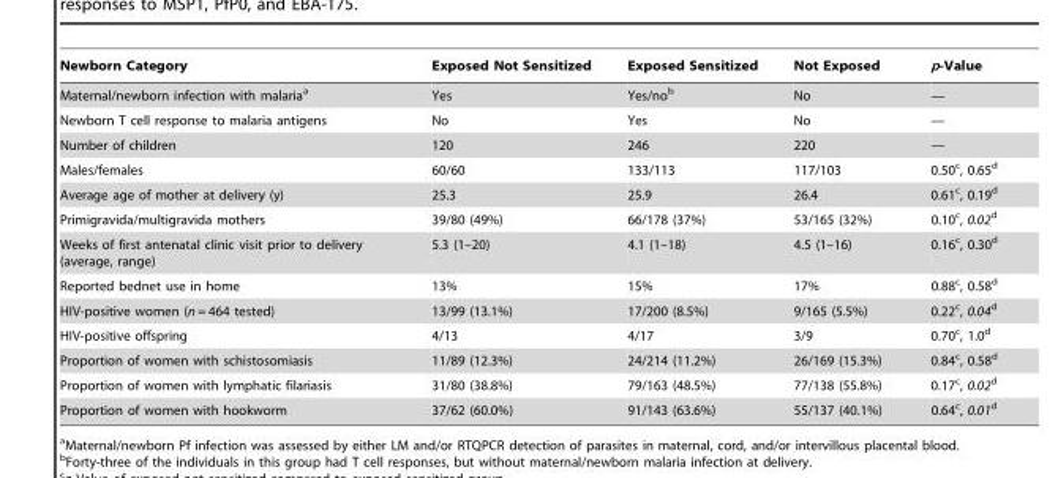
<table><thead><tr><td>Newborn Category</td><td>Exposed Not Sensitized</td><td>Exposed Sensitized</td><td>Not Exposed</td><td>p-Value</td></tr></thead><tbody><tr><td>Maternal/newborn infection with malaria<sup>a</sup></td><td>Yes</td><td>Yes/no<sup>b</sup></td><td>No</td><td>—</td></tr><tr><td>Newborn T cell response to malaria antigens</td><td>No</td><td>Yes</td><td>No</td><td>—</td></tr><tr><td>Number of children</td><td>120</td><td>246</td><td>220</td><td>—</td></tr><tr><td>Males/females</td><td>60/60</td><td>133/113</td><td>117/103</td><td>0.50<sup>c</sup>, 0.65<sup>d</sup></td></tr><tr><td>Average age of mother at delivery (y)</td><td>25.3</td><td>25.9</td><td>26.4</td><td>0.61<sup>c</sup>, 0.19<sup>d</sup></td></tr><tr><td>Primigravida/multigravida mothers</td><td>39/80 (49%)</td><td>66/178 (37%)</td><td>53/165 (32%)</td><td>0.10<sup>c</sup>, 0.02d</td></tr><tr><td>Weeks of first antenatal clinic visit prior to delivery (average, range)</td><td>5.3 (1–20)</td><td>4.1 (1–18)</td><td>4.5 (1–16)</td><td>0.16<sup>c</sup>, 0.30<sup>d</sup></td></tr><tr><td>Reported bednet use in home</td><td>13%</td><td>15%</td><td>17%</td><td>0.88<sup>c</sup>, 0.58<sup>d</sup></td></tr><tr><td>HIV-positive women (n = 464 tested)</td><td>13/99 (13.1%)</td><td>17/200 (8.5%)</td><td>9/165 (5.5%)</td><td>0.22<sup>c</sup>, 0.04d</td></tr><tr><td>HIV-positive offspring</td><td>4/13</td><td>4/17</td><td>3/9</td><td>0.70<sup>c</sup>, 1.0<sup>d</sup></td></tr><tr><td>Proportion of women with schistosomiasis</td><td>11/89 (12.3%)</td><td>24/214 (11.2%)</td><td>26/169 (15.3%)</td><td>0.84<sup>c</sup>, 0.58<sup>d</sup></td></tr><tr><td>Proportion of women with lymphatic filariasis</td><td>31/80 (38.8%)</td><td>79/163 (48.5%)</td><td>77/138 (55.8%)</td><td>0.17<sup>c</sup>, 0.02d</td></tr><tr><td>Proportion of women with hookworm</td><td>37/62 (60.0%)</td><td>91/143 (63.6%)</td><td>55/137 (40.1%)</td><td>0.64<sup>c</sup>, 0.01d</td></tr></tbody></table>